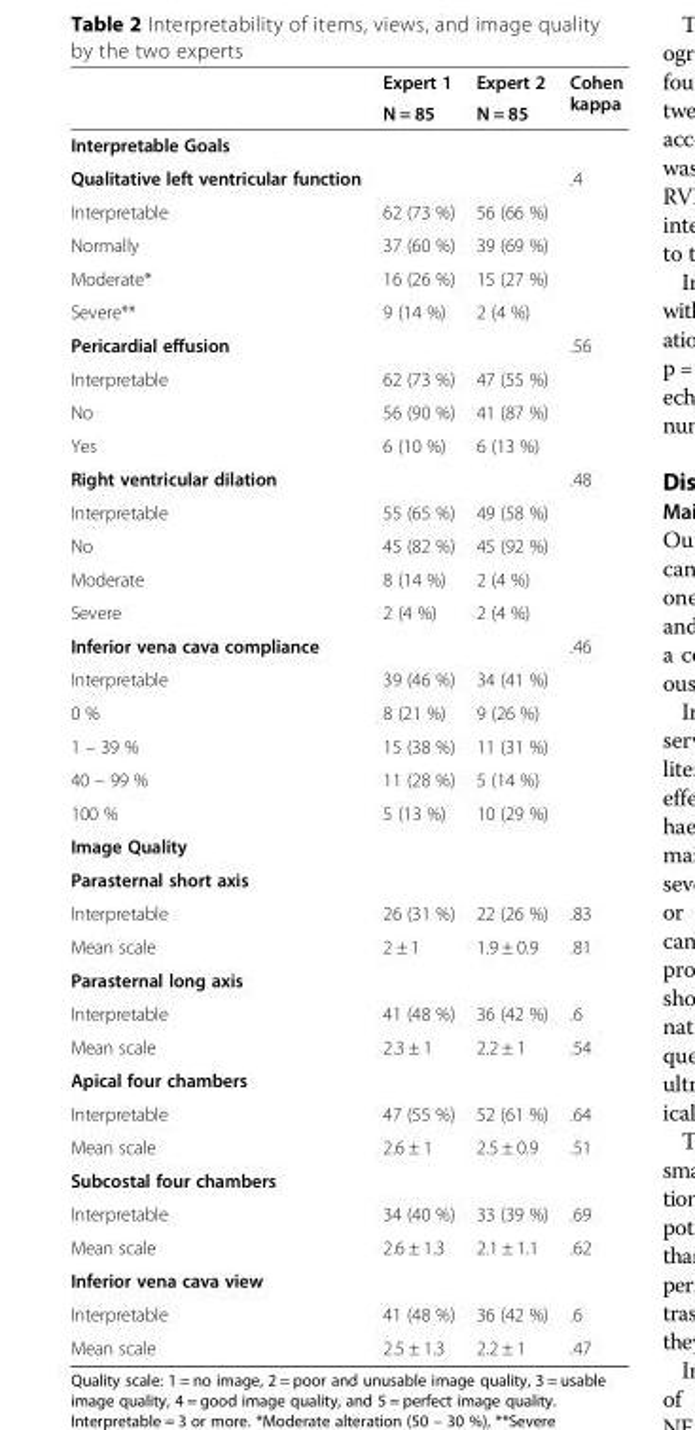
<table><thead><tr><td rowspan="2"></td><td rowspan="2">Expert 1 N = 85</td><td rowspan="2">Expert 2 N = 85</td><td rowspan="2">Cohen kappa</td></tr><tr></tr></thead><tbody><tr><td colspan="4">Interpretable Goals</td></tr><tr><td>Qualitative left ventricular function</td><td></td><td></td><td>.4</td></tr><tr><td>Interpretable</td><td>62 (73 %)</td><td>56 (66 %)</td><td rowspan="4"></td></tr><tr><td>Normally</td><td>37 (60 %)</td><td>39 (69 %)</td></tr><tr><td>Moderate*</td><td>16 (26 %)</td><td>15 (27 %)</td></tr><tr><td>Severe**</td><td>9 (14 %)</td><td>2 (4 %)</td></tr><tr><td>Pericardial effusion</td><td></td><td></td><td>.56</td></tr><tr><td>Interpretable</td><td>62 (73 %)</td><td>47 (55 %)</td><td rowspan="3"></td></tr><tr><td>No</td><td>56 (90 %)</td><td>41 (87 %)</td></tr><tr><td>Yes</td><td>6 (10 %)</td><td>6 (13 %)</td></tr><tr><td>Right ventricular dilation</td><td></td><td></td><td>.48</td></tr><tr><td>Interpretable</td><td>55 (65 %)</td><td>49 (58 %)</td><td rowspan="4"></td></tr><tr><td>No</td><td>45 (82 %)</td><td>45 (92 %)</td></tr><tr><td>Moderate</td><td>8 (14 %)</td><td>2 (4 %)</td></tr><tr><td>Severe</td><td>2 (4 %)</td><td>2 (4 %)</td></tr><tr><td>Inferior vena cava compliance</td><td></td><td></td><td>.46</td></tr><tr><td>Interpretable</td><td>39 (46 %)</td><td>34 (41 %)</td><td rowspan="5"></td></tr><tr><td>0 %</td><td>8 (21 %)</td><td>9 (26 %)</td></tr><tr><td>1 – 39 %</td><td>15 (38 %)</td><td>11 (31 %)</td></tr><tr><td>40 – 99 %</td><td>11 (28 %)</td><td>5 (14 %)</td></tr><tr><td>100 %</td><td>5 (13 %)</td><td>10 (29 %)</td></tr><tr><td colspan="4">Image Quality</td></tr><tr><td colspan="4">Parasternal short axis</td></tr><tr><td>Interpretable</td><td>26 (31 %)</td><td>22 (26 %)</td><td>.83</td></tr><tr><td>Mean scale</td><td>2 ± 1</td><td>1.9 ± 0.9</td><td>.81</td></tr><tr><td colspan="4">Parasternal long axis</td></tr><tr><td>Interpretable</td><td>41 (48 %)</td><td>36 (42 %)</td><td>.6</td></tr><tr><td>Mean scale</td><td>2.3 ± 1</td><td>2.2 ± 1</td><td>.54</td></tr><tr><td colspan="4">Apical four chambers</td></tr><tr><td>Interpretable</td><td>47 (55 %)</td><td>52 (61 %)</td><td>.64</td></tr><tr><td>Mean scale</td><td>2.6 ± 1</td><td>2.5 ± 0.9</td><td>.51</td></tr><tr><td colspan="4">Subcostal four chambers</td></tr><tr><td>Interpretable</td><td>34 (40 %)</td><td>33 (39 %)</td><td>.69</td></tr><tr><td>Mean scale</td><td>2.6 ± 1.3</td><td>2.1 ± 1.1</td><td>.62</td></tr><tr><td colspan="4">Inferior vena cava view</td></tr><tr><td>Interpretable</td><td>41 (48 %)</td><td>36 (42 %)</td><td>.6</td></tr><tr><td>Mean scale</td><td>2.5 ± 1.3</td><td>2.2 ± 1</td><td>.47</td></tr></tbody></table>